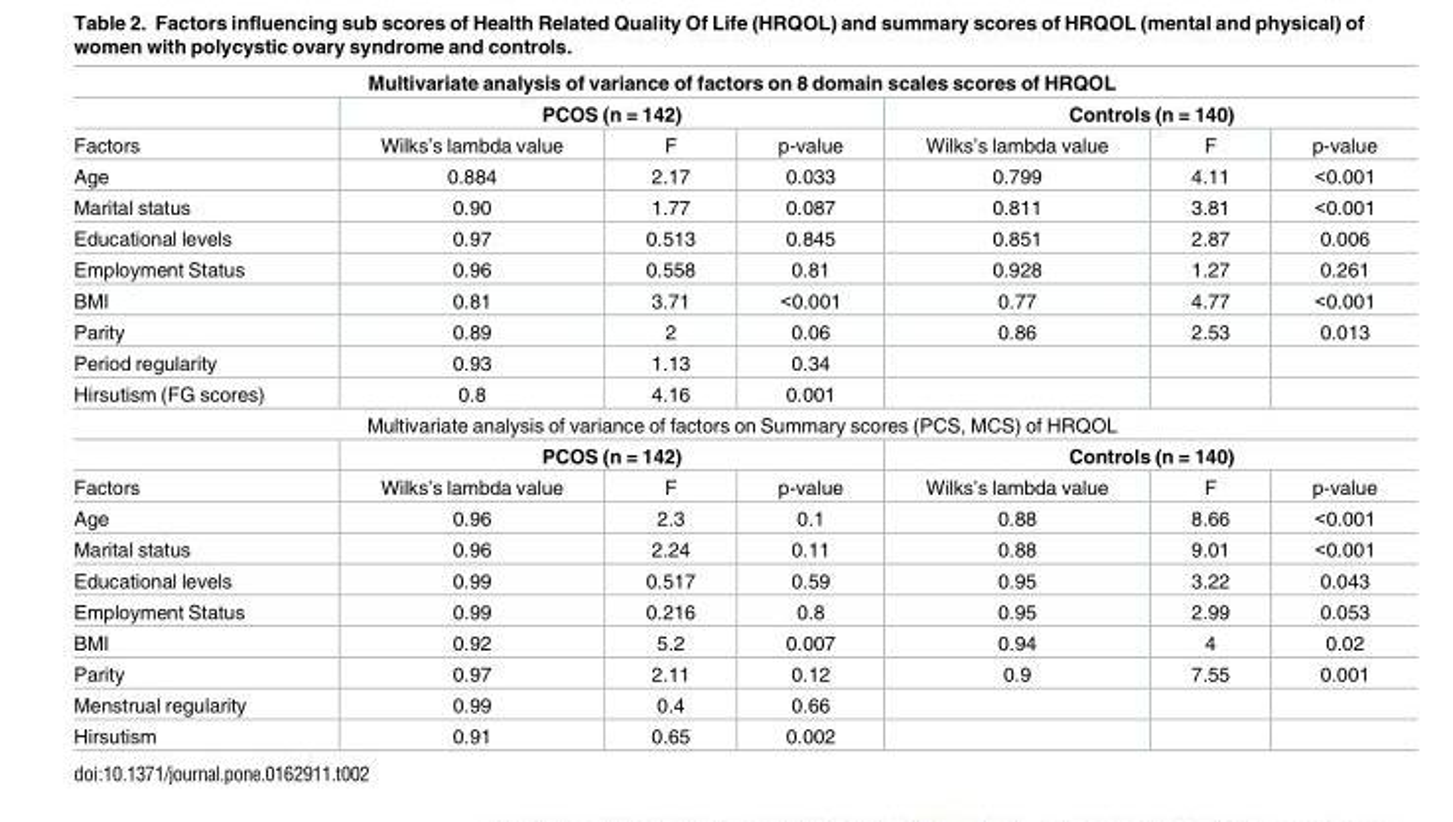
<table><tbody><tr><td colspan="7">Multivariate analysis of variance of factors on 8 domain scales scores of HRQOL</td></tr><tr><td></td><td colspan="3">PCOS (n = 142)</td><td colspan="3">Controls (n = 140)</td></tr><tr><td>Factors</td><td>Wilks’s lambda value</td><td>F</td><td>p-value</td><td>Wilks’s lambda value</td><td>F</td><td>p-value</td></tr><tr><td>Age</td><td>0.884</td><td>2.17</td><td>0.033</td><td>0.799</td><td>4.11</td><td>&lt;0.001</td></tr><tr><td>Marital status</td><td>0.90</td><td>1.77</td><td>0.087</td><td>0.811</td><td>3.81</td><td>&lt;0.001</td></tr><tr><td>Educational levels</td><td>0.97</td><td>0.513</td><td>0.845</td><td>0.851</td><td>2.87</td><td>0.006</td></tr><tr><td>Employment Status</td><td>0.96</td><td>0.558</td><td>0.81</td><td>0.928</td><td>1.27</td><td>0.261</td></tr><tr><td>BMI</td><td>0.81</td><td>3.71</td><td>&lt;0.001</td><td>0.77</td><td>4.77</td><td>&lt;0.001</td></tr><tr><td>Parity</td><td>0.89</td><td>2</td><td>0.06</td><td>0.86</td><td>2.53</td><td>0.013</td></tr><tr><td>Period regularity</td><td>0.93</td><td>1.13</td><td>0.34</td><td></td><td></td><td></td></tr><tr><td>Hirsutism (FG scores)</td><td>0.8</td><td>4.16</td><td>0.001</td><td></td><td></td><td></td></tr><tr><td colspan="7">Multivariate analysis of variance of factors on Summary scores (PCS, MCS) of HRQOL</td></tr><tr><td></td><td colspan="3">PCOS (n = 142)</td><td colspan="3">Controls (n = 140)</td></tr><tr><td>Factors</td><td>Wilks’s lambda value</td><td>F</td><td>p-value</td><td>Wilks’s lambda value</td><td>F</td><td>p-value</td></tr><tr><td>Age</td><td>0.96</td><td>2.3</td><td>0.1</td><td>0.88</td><td>8.66</td><td>&lt;0.001</td></tr><tr><td>Marital status</td><td>0.96</td><td>2.24</td><td>0.11</td><td>0.88</td><td>9.01</td><td>&lt;0.001</td></tr><tr><td>Educational levels</td><td>0.99</td><td>0.517</td><td>0.59</td><td>0.95</td><td>3.22</td><td>0.043</td></tr><tr><td>Employment Status</td><td>0.99</td><td>0.216</td><td>0.8</td><td>0.95</td><td>2.99</td><td>0.053</td></tr><tr><td>BMI</td><td>0.92</td><td>5.2</td><td>0.007</td><td>0.94</td><td>4</td><td>0.02</td></tr><tr><td>Parity</td><td>0.97</td><td>2.11</td><td>0.12</td><td>0.9</td><td>7.55</td><td>0.001</td></tr><tr><td>Menstrual regularity</td><td>0.99</td><td>0.4</td><td>0.66</td><td></td><td></td><td></td></tr><tr><td>Hirsutism</td><td>0.91</td><td>0.65</td><td>0.002</td><td></td><td></td><td></td></tr></tbody></table>